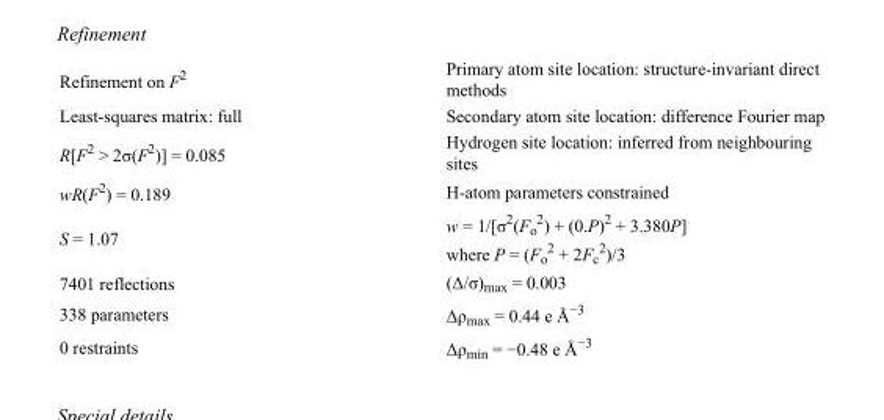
<table><tbody><tr><td>Refinement on F<sup>2</sup></td><td>Primary atom site location: structure-invariant direct methods</td></tr><tr><td>Least-squares matrix: full</td><td>Secondary atom site location: difference Fourier map</td></tr><tr><td>R[F<sup>2</sup> &gt; 2σ(F<sup>2</sup>)] = 0.085</td><td>Hydrogen site location: inferred from neighbouring sites</td></tr><tr><td>wR(F<sup>2</sup>) = 0.189</td><td>H-atom parameters constrained</td></tr><tr><td>S = 1.07</td><td>w = 1/[σ<sup>2</sup>(F<sub>o</sub> <sup>2</sup>) + (0.P)<sup>2</sup> + 3.380P] where P = (F<sub>o</sub> <sup>2</sup> + 2F<sub>c</sub> <sup>2</sup>)/3</td></tr><tr><td>7401 reflections</td><td>(Δ/σ)<sub>max</sub> = 0.003</td></tr><tr><td>338 parameters</td><td>Δρ<sub>max</sub> = 0.44 e Å<sup>−3</sup></td></tr><tr><td>0 restraints</td><td>Δρ<sub>min</sub> = −0.48 e Å<sup>−3</sup></td></tr></tbody></table>